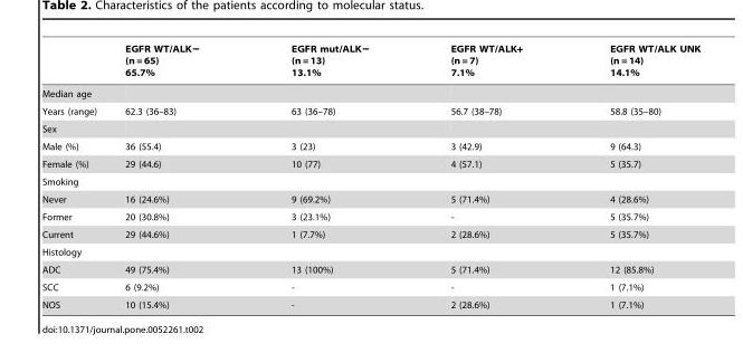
<table><thead><tr><td></td><td>EGFR WT/ALK− (n = 65) 65.7%</td><td>EGFR mut/ALK− (n = 13) 13.1%</td><td>EGFR WT/ALK+ (n = 7) 7.1%</td><td>EGFR WT/ALK UNK (n = 14) 14.1%</td></tr></thead><tbody><tr><td colspan="5">Median age</td></tr><tr><td>Years (range)</td><td>62.3 (36–83)</td><td>63 (36–78)</td><td>56.7 (38–78)</td><td>58.8 (35–80)</td></tr><tr><td colspan="5">Sex</td></tr><tr><td>Male (%)</td><td>36 (55.4)</td><td>3 (23)</td><td>3 (42.9)</td><td>9 (64.3)</td></tr><tr><td>Female (%)</td><td>29 (44.6)</td><td>10 (77)</td><td>4 (57.1)</td><td>5 (35.7)</td></tr><tr><td colspan="5">Smoking</td></tr><tr><td>Never</td><td>16 (24.6%)</td><td>9 (69.2%)</td><td>5 (71.4%)</td><td>4 (28.6%)</td></tr><tr><td>Former</td><td>20 (30.8%)</td><td>3 (23.1%)</td><td>-</td><td>5 (35.7%)</td></tr><tr><td>Current</td><td>29 (44.6%)</td><td>1 (7.7%)</td><td>2 (28.6%)</td><td>5 (35.7%)</td></tr><tr><td colspan="5">Histology</td></tr><tr><td>ADC</td><td>49 (75.4%)</td><td>13 (100%)</td><td>5 (71.4%)</td><td>12 (85.8%)</td></tr><tr><td>SCC</td><td>6 (9.2%)</td><td>-</td><td>-</td><td>1 (7.1%)</td></tr><tr><td>NOS</td><td>10 (15.4%)</td><td>-</td><td>2 (28.6%)</td><td>1 (7.1%)</td></tr></tbody></table>